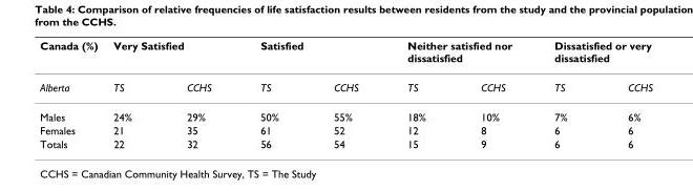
<table><thead><tr><td rowspan="2">Canada (%) Alberta</td><td colspan="2">Very Satisfied</td><td colspan="2">Satisfied</td><td colspan="2">Neither satisfied nor dissatisfied</td><td colspan="2">Dissatisfied or very dissatisfied</td></tr><tr><td>TS</td><td>CCHS</td><td>TS</td><td>CCHS</td><td>TS</td><td>CCHS</td><td>TS</td><td>CCHS</td></tr></thead><tbody><tr><td>Males</td><td>24%</td><td>29%</td><td>50%</td><td>55%</td><td>18%</td><td>10%</td><td>7%</td><td>6%</td></tr><tr><td>Females</td><td>21</td><td>35</td><td>61</td><td>52</td><td>12</td><td>8</td><td>6</td><td>6</td></tr><tr><td>Totals</td><td>22</td><td>32</td><td>56</td><td>54</td><td>15</td><td>9</td><td>6</td><td>6</td></tr></tbody></table>